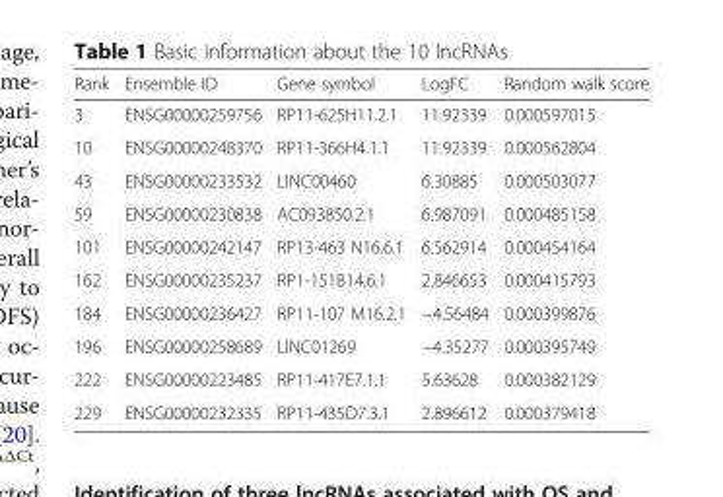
<table><thead><tr><td>Rank</td><td>Ensemble ID</td><td>Gene symbol</td><td>LogFC</td><td>Random walk score</td></tr></thead><tbody><tr><td>3</td><td>ENSG00000259756</td><td>RP11-625H11.2.1</td><td>11.92339</td><td>0.000597015</td></tr><tr><td>10</td><td>ENSG00000248370</td><td>RP11-366H4.1.1</td><td>11.92339</td><td>0.000562804</td></tr><tr><td>43</td><td>ENSG00000233532</td><td>LINC00460</td><td>6.30885</td><td>0.000503077</td></tr><tr><td>59</td><td>ENSG00000230838</td><td>AC093850.2.1</td><td>6.987091</td><td>0.000485158</td></tr><tr><td>101</td><td>ENSG00000242147</td><td>RP13-463 N16.6.1</td><td>6.562914</td><td>0.000454164</td></tr><tr><td>162</td><td>ENSG00000235237</td><td>RP1-151B14.6.1</td><td>2.846653</td><td>0.000415793</td></tr><tr><td>184</td><td>ENSG00000236427</td><td>RP11-107 M16.2.1</td><td>−4.56484</td><td>0.000399876</td></tr><tr><td>196</td><td>ENSG00000258689</td><td>LINC01269</td><td>−4.35277</td><td>0.000395749</td></tr><tr><td>222</td><td>ENSG00000223485</td><td>RP11-417E7.1.1</td><td>5.63628</td><td>0.000382129</td></tr><tr><td>229</td><td>ENSG00000232335</td><td>RP11-435D7.3.1</td><td>2.896612</td><td>0.000379418</td></tr></tbody></table>